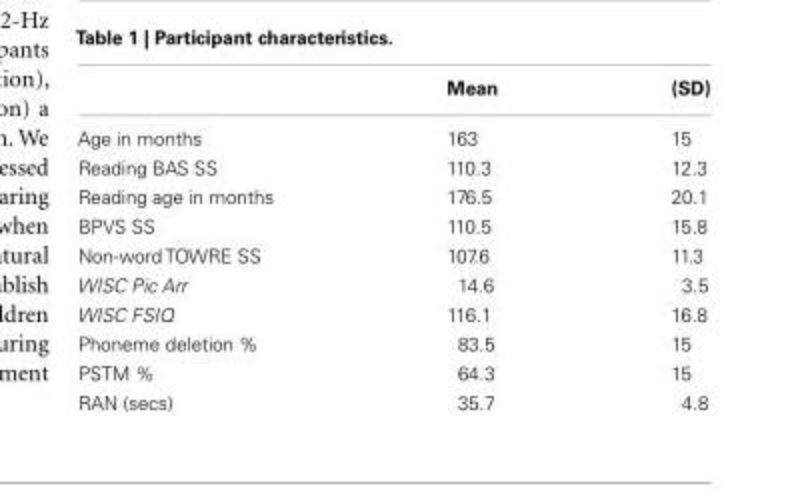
<table><thead><tr><td></td><td>Mean</td><td>(SD)</td></tr></thead><tbody><tr><td>Age in months</td><td>163</td><td>15</td></tr><tr><td>Reading BAS SS</td><td>110.3</td><td>12.3</td></tr><tr><td>Reading age in months</td><td>176.5</td><td>20.1</td></tr><tr><td>BPVS SS</td><td>110.5</td><td>15.8</td></tr><tr><td>Non-word TOWRE SS</td><td>107.6</td><td>11.3</td></tr><tr><td>WISC Pic Arr</td><td>14.6</td><td>3.5</td></tr><tr><td>WISC FSIQ</td><td>116.1</td><td>16.8</td></tr><tr><td>Phoneme deletion %</td><td>83.5</td><td>15</td></tr><tr><td>PSTM %</td><td>64.3</td><td>15</td></tr><tr><td>RAN (secs)</td><td>35.7</td><td>4.8</td></tr></tbody></table>